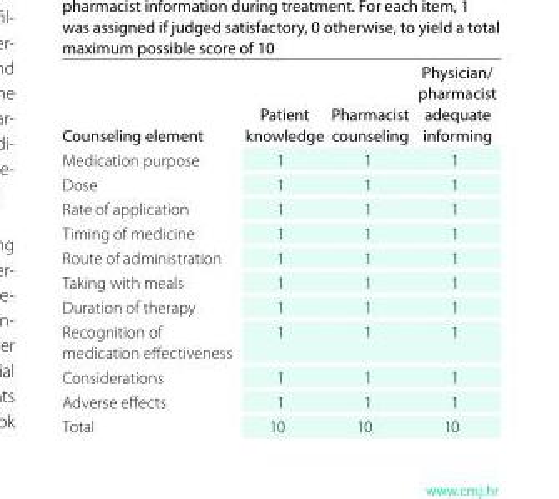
<table><thead><tr><td>counseling element</td><td>Patient knowledge</td><td>Pharmacist counseling</td><td>Physician/ pharmacist adequate informing</td></tr></thead><tbody><tr><td>Medication purpose</td><td>1</td><td>1</td><td>1</td></tr><tr><td>Dose</td><td>1</td><td>1</td><td>1</td></tr><tr><td>Rate of application</td><td>1</td><td>1</td><td>1</td></tr><tr><td>Timing of medicine</td><td>1</td><td>1</td><td>1</td></tr><tr><td>Route of administration</td><td>1</td><td>1</td><td>1</td></tr><tr><td>Taking with meals</td><td>1</td><td>1</td><td>1</td></tr><tr><td>Duration of therapy</td><td>1</td><td>1</td><td>1</td></tr><tr><td>Recognition of medication effectiveness</td><td>1</td><td>1</td><td>1</td></tr><tr><td>Considerations</td><td>1</td><td>1</td><td>1</td></tr><tr><td>Adverse effects</td><td>1</td><td>1</td><td>1</td></tr><tr><td>Total</td><td>10</td><td>10</td><td>10</td></tr></tbody></table>